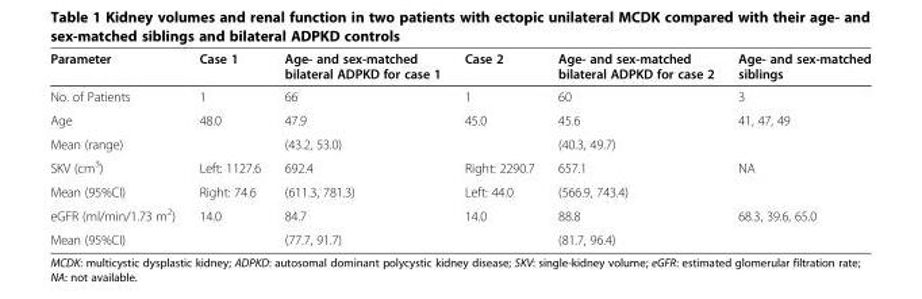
<table><thead><tr><td>Parameter</td><td>Case 1</td><td>Age- and sex-matched bilateral ADPKD for case 1</td><td>Case 2</td><td>Age- and sex-matched bilateral ADPKD for case 2</td><td>Age- and sex-matched siblings</td></tr></thead><tbody><tr><td>No. of Patients</td><td>1</td><td>66</td><td>1</td><td>60</td><td>3</td></tr><tr><td>Age</td><td>48.0</td><td>47.9</td><td>45.0</td><td>45.6</td><td>41, 47, 49</td></tr><tr><td>Mean (range)</td><td></td><td>(43.2, 53.0)</td><td></td><td>(40.3, 49.7)</td><td></td></tr><tr><td>SKV (cm<sup>3</sup>)</td><td>Left: 1127.6</td><td>692.4</td><td>Right: 2290.7</td><td>657.1</td><td>NA</td></tr><tr><td>Mean (95%CI)</td><td>Right: 74.6</td><td>(611.3, 781.3)</td><td>Left: 44.0</td><td>(566.9, 743.4)</td><td></td></tr><tr><td>eGFR (ml/min/1.73 m<sup>2</sup>)</td><td>14.0</td><td>84.7</td><td>14.0</td><td>88.8</td><td>68.3, 39.6, 65.0</td></tr><tr><td>Mean (95%CI)</td><td></td><td>(77.7, 91.7)</td><td></td><td>(81.7, 96.4)</td><td></td></tr></tbody></table>